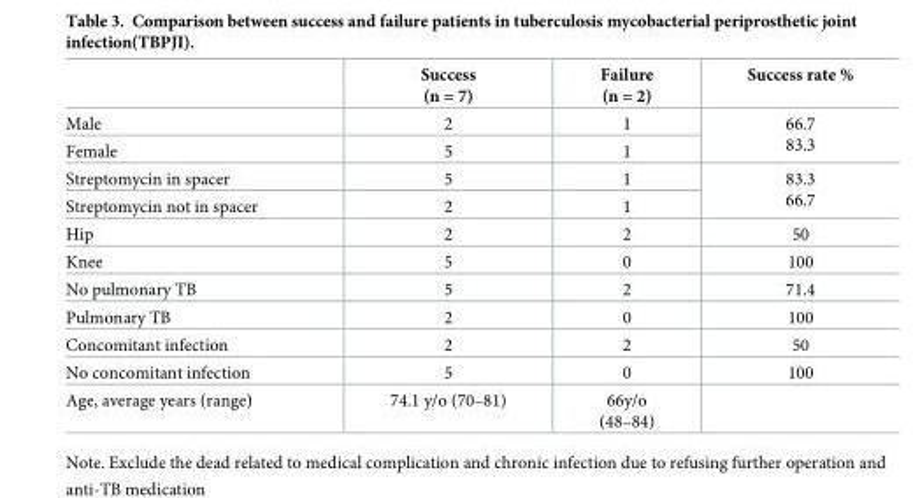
<table><thead><tr><td></td><td>Success (n = 7)</td><td>Failure (n = 2)</td><td>Success rate %</td></tr></thead><tbody><tr><td>Male</td><td>2</td><td>1</td><td rowspan="2">66.7 83.3</td></tr><tr><td>Female</td><td>5</td><td>1</td></tr><tr><td>Streptomycin in spacer</td><td>5</td><td>1</td><td rowspan="2">83.3 66.7</td></tr><tr><td>Streptomycin not in spacer</td><td>2</td><td>1</td></tr><tr><td>Hip</td><td>2</td><td>2</td><td>50</td></tr><tr><td>Knee</td><td>5</td><td>0</td><td>100</td></tr><tr><td>No pulmonary TB</td><td>5</td><td>2</td><td>71.4</td></tr><tr><td>Pulmonary TB</td><td>2</td><td>0</td><td>100</td></tr><tr><td>Concomitant infection</td><td>2</td><td>2</td><td>50</td></tr><tr><td>No concomitant infection</td><td>5</td><td>0</td><td>100</td></tr><tr><td>Age, average years (range)</td><td>74.1 y/o (70–81)</td><td>66y/o (48–84)</td><td></td></tr></tbody></table>